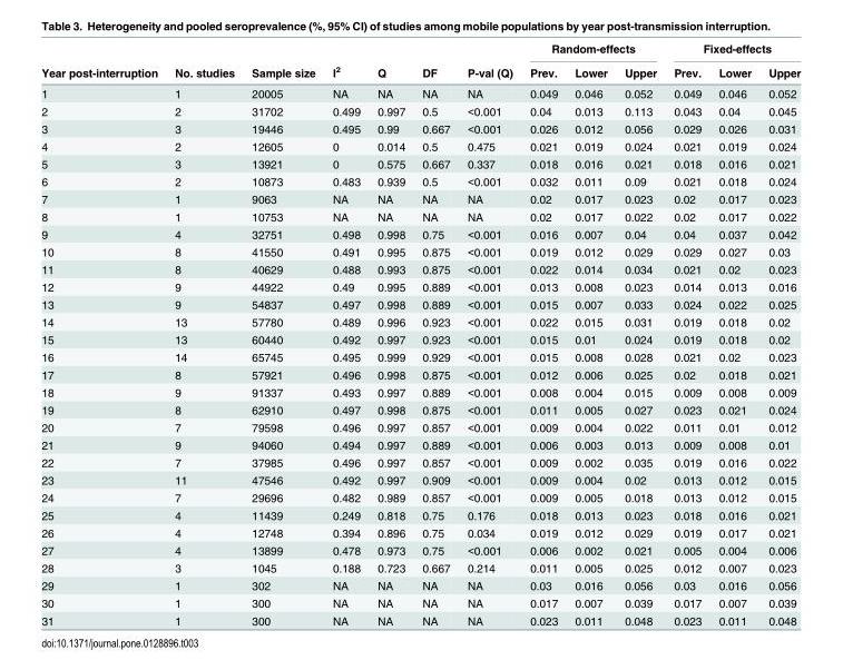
<table><thead><tr><td rowspan="2">Year post-interruption</td><td rowspan="2">No. studies</td><td rowspan="2">Sample size</td><td rowspan="2">I<sup>2</sup></td><td rowspan="2">Q</td><td rowspan="2">DF</td><td rowspan="2">P-val (Q)</td><td colspan="3">Random-effects</td><td colspan="3">Fixed-effects</td></tr><tr><td>Prev.</td><td>Lower</td><td>Upper</td><td>Prev.</td><td>Lower</td><td>Upper</td></tr></thead><tbody><tr><td>1</td><td>1</td><td>20005</td><td>NA</td><td>NA</td><td>NA</td><td>NA</td><td>0.049</td><td>0.046</td><td>0.052</td><td>0.049</td><td>0.046</td><td>0.052</td></tr><tr><td>2</td><td>2</td><td>31702</td><td>0.499</td><td>0.997</td><td>0.5</td><td>&lt;0.001</td><td>0.04</td><td>0.013</td><td>0.113</td><td>0.043</td><td>0.04</td><td>0.045</td></tr><tr><td>3</td><td>3</td><td>19446</td><td>0.495</td><td>0.99</td><td>0.667</td><td>&lt;0.001</td><td>0.026</td><td>0.012</td><td>0.056</td><td>0.029</td><td>0.026</td><td>0.031</td></tr><tr><td>4</td><td>2</td><td>12605</td><td>0</td><td>0.014</td><td>0.5</td><td>0.475</td><td>0.021</td><td>0.019</td><td>0.024</td><td>0.021</td><td>0.019</td><td>0.024</td></tr><tr><td>5</td><td>3</td><td>13921</td><td>0</td><td>0.575</td><td>0.667</td><td>0.337</td><td>0.018</td><td>0.016</td><td>0.021</td><td>0.018</td><td>0.016</td><td>0.021</td></tr><tr><td>6</td><td>2</td><td>10873</td><td>0.483</td><td>0.939</td><td>0.5</td><td>&lt;0.001</td><td>0.032</td><td>0.011</td><td>0.09</td><td>0.021</td><td>0.018</td><td>0.024</td></tr><tr><td>7</td><td>1</td><td>9063</td><td>NA</td><td>NA</td><td>NA</td><td>NA</td><td>0.02</td><td>0.017</td><td>0.023</td><td>0.02</td><td>0.017</td><td>0.023</td></tr><tr><td>8</td><td>1</td><td>10753</td><td>NA</td><td>NA</td><td>NA</td><td>NA</td><td>0.02</td><td>0.017</td><td>0.022</td><td>0.02</td><td>0.017</td><td>0.022</td></tr><tr><td>9</td><td>4</td><td>32751</td><td>0.498</td><td>0.998</td><td>0.75</td><td>&lt;0.001</td><td>0.016</td><td>0.007</td><td>0.04</td><td>0.04</td><td>0.037</td><td>0.042</td></tr><tr><td>10</td><td>8</td><td>41550</td><td>0.491</td><td>0.995</td><td>0.875</td><td>&lt;0.001</td><td>0.019</td><td>0.012</td><td>0.029</td><td>0.029</td><td>0.027</td><td>0.03</td></tr><tr><td>11</td><td>8</td><td>40629</td><td>0.488</td><td>0.993</td><td>0.875</td><td>&lt;0.001</td><td>0.022</td><td>0.014</td><td>0.034</td><td>0.021</td><td>0.02</td><td>0.023</td></tr><tr><td>12</td><td>9</td><td>44922</td><td>0.49</td><td>0.995</td><td>0.889</td><td>&lt;0.001</td><td>0.013</td><td>0.008</td><td>0.023</td><td>0.014</td><td>0.013</td><td>0.016</td></tr><tr><td>13</td><td>9</td><td>54837</td><td>0.497</td><td>0.998</td><td>0.889</td><td>&lt;0.001</td><td>0.015</td><td>0.007</td><td>0.033</td><td>0.024</td><td>0.022</td><td>0.025</td></tr><tr><td>14</td><td>13</td><td>57780</td><td>0.489</td><td>0.996</td><td>0.923</td><td>&lt;0.001</td><td>0.022</td><td>0.015</td><td>0.031</td><td>0.019</td><td>0.018</td><td>0.02</td></tr><tr><td>15</td><td>13</td><td>60440</td><td>0.492</td><td>0.997</td><td>0.923</td><td>&lt;0.001</td><td>0.015</td><td>0.01</td><td>0.024</td><td>0.019</td><td>0.018</td><td>0.02</td></tr><tr><td>16</td><td>14</td><td>65745</td><td>0.495</td><td>0.999</td><td>0.929</td><td>&lt;0.001</td><td>0.015</td><td>0.008</td><td>0.028</td><td>0.021</td><td>0.02</td><td>0.023</td></tr><tr><td>17</td><td>8</td><td>57921</td><td>0.496</td><td>0.998</td><td>0.875</td><td>&lt;0.001</td><td>0.012</td><td>0.006</td><td>0.025</td><td>0.02</td><td>0.018</td><td>0.021</td></tr><tr><td>18</td><td>9</td><td>91337</td><td>0.493</td><td>0.997</td><td>0.889</td><td>&lt;0.001</td><td>0.008</td><td>0.004</td><td>0.015</td><td>0.009</td><td>0.008</td><td>0.009</td></tr><tr><td>19</td><td>8</td><td>62910</td><td>0.497</td><td>0.998</td><td>0.875</td><td>&lt;0.001</td><td>0.011</td><td>0.005</td><td>0.027</td><td>0.023</td><td>0.021</td><td>0.024</td></tr><tr><td>20</td><td>7</td><td>79598</td><td>0.496</td><td>0.997</td><td>0.857</td><td>&lt;0.001</td><td>0.009</td><td>0.004</td><td>0.022</td><td>0.011</td><td>0.01</td><td>0.012</td></tr><tr><td>21</td><td>9</td><td>94060</td><td>0.494</td><td>0.997</td><td>0.889</td><td>&lt;0.001</td><td>0.006</td><td>0.003</td><td>0.013</td><td>0.009</td><td>0.008</td><td>0.01</td></tr><tr><td>22</td><td>7</td><td>37985</td><td>0.496</td><td>0.997</td><td>0.857</td><td>&lt;0.001</td><td>0.009</td><td>0.002</td><td>0.035</td><td>0.019</td><td>0.016</td><td>0.022</td></tr><tr><td>23</td><td>11</td><td>47546</td><td>0.492</td><td>0.997</td><td>0.909</td><td>&lt;0.001</td><td>0.009</td><td>0.004</td><td>0.02</td><td>0.013</td><td>0.012</td><td>0.015</td></tr><tr><td>24</td><td>7</td><td>29696</td><td>0.482</td><td>0.989</td><td>0.857</td><td>&lt;0.001</td><td>0.009</td><td>0.005</td><td>0.018</td><td>0.013</td><td>0.012</td><td>0.015</td></tr><tr><td>25</td><td>4</td><td>11439</td><td>0.249</td><td>0.818</td><td>0.75</td><td>0.176</td><td>0.018</td><td>0.013</td><td>0.023</td><td>0.018</td><td>0.016</td><td>0.021</td></tr><tr><td>26</td><td>4</td><td>12748</td><td>0.394</td><td>0.896</td><td>0.75</td><td>0.034</td><td>0.019</td><td>0.012</td><td>0.029</td><td>0.019</td><td>0.017</td><td>0.021</td></tr><tr><td>27</td><td>4</td><td>13899</td><td>0.478</td><td>0.973</td><td>0.75</td><td>&lt;0.001</td><td>0.006</td><td>0.002</td><td>0.021</td><td>0.005</td><td>0.004</td><td>0.006</td></tr><tr><td>28</td><td>3</td><td>1045</td><td>0.188</td><td>0.723</td><td>0.667</td><td>0.214</td><td>0.011</td><td>0.005</td><td>0.025</td><td>0.012</td><td>0.007</td><td>0.023</td></tr><tr><td>29</td><td>1</td><td>302</td><td>NA</td><td>NA</td><td>NA</td><td>NA</td><td>0.03</td><td>0.016</td><td>0.056</td><td>0.03</td><td>0.016</td><td>0.056</td></tr><tr><td>30</td><td>1</td><td>300</td><td>NA</td><td>NA</td><td>NA</td><td>NA</td><td>0.017</td><td>0.007</td><td>0.039</td><td>0.017</td><td>0.007</td><td>0.039</td></tr><tr><td>31</td><td>1</td><td>300</td><td>NA</td><td>NA</td><td>NA</td><td>NA</td><td>0.023</td><td>0.011</td><td>0.048</td><td>0.023</td><td>0.011</td><td>0.048</td></tr></tbody></table>